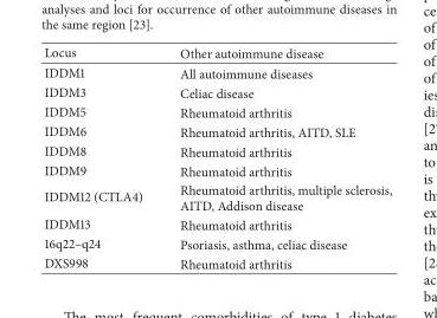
<table><thead><tr><td>Locus</td><td>Other autoimmune disease</td></tr></thead><tbody><tr><td>IDDM1</td><td>All autoimmune diseases</td></tr><tr><td>IDDM3</td><td>Celiac disease</td></tr><tr><td>IDDM5</td><td>Rheumatoid arthritis</td></tr><tr><td>IDDM6</td><td>Rheumatoid arthritis, AITD, SLE</td></tr><tr><td>IDDM8</td><td>Rheumatoid arthritis</td></tr><tr><td>IDDM9</td><td>Rheumatoid arthritis</td></tr><tr><td>IDDM12 (CTLA4)</td><td>Rheumatoid arthritis, multiple sclerosis, AITD, Addison disease</td></tr><tr><td>IDDM13</td><td>Rheumatoid arthritis</td></tr><tr><td>16q22–q24</td><td>Psoriasis, asthma, celiac disease</td></tr><tr><td>DXS998</td><td>Rheumatoid arthritis</td></tr></tbody></table>